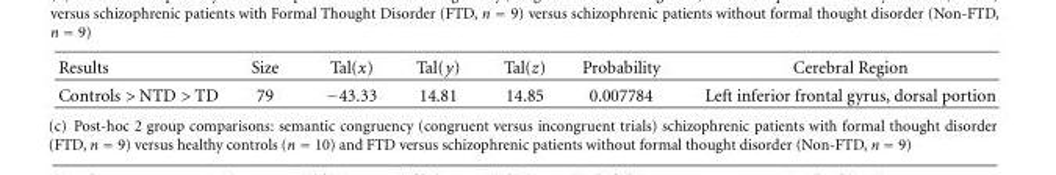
<table><thead><tr><td>Results</td><td>Size</td><td>Tal(x)</td><td>Tal(y)</td><td>Tal(z)</td><td>Probability</td><td>Cerebral Region</td></tr></thead><tbody><tr><td>Controls &gt; NTD &gt; TD</td><td>79</td><td>−43.33</td><td>14.81</td><td>14.85</td><td>0.007784</td><td>Left inferior frontal gyrus, dorsal portion</td></tr></tbody></table>